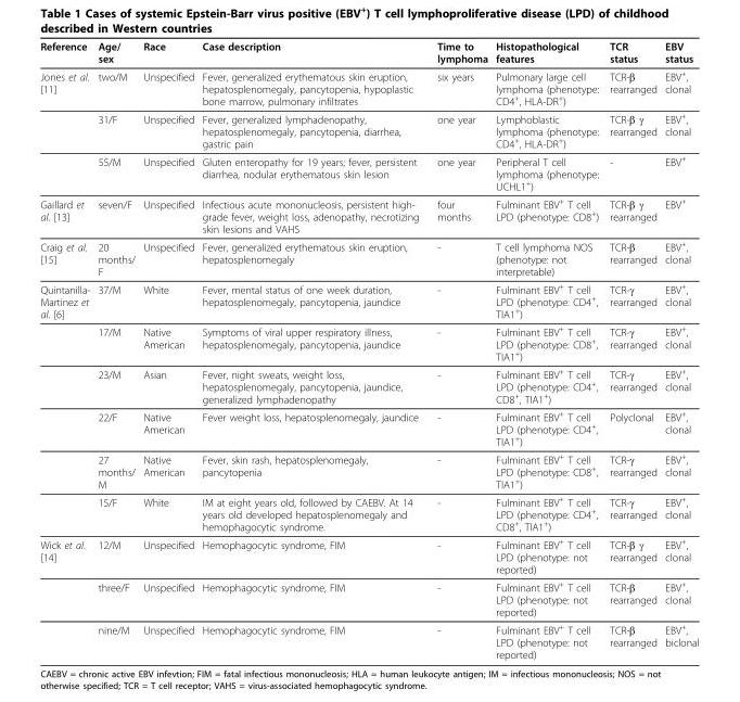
<table><thead><tr><td>Reference</td><td>Age/ sex</td><td>Race</td><td>Case description</td><td>Time to lymphoma</td><td>Histopathological features</td><td>TCR status</td><td>EBV status</td></tr></thead><tbody><tr><td rowspan="3">Jones et al. [11]</td><td>two/M</td><td>Unspecified</td><td>Fever, generalized erythematous skin eruption, hepatosplenomegaly, pancytopenia, hypoplastic bone marrow, pulmonary infiltrates</td><td>six years</td><td>Pulmonary large cell lymphoma (phenotype: CD4<sup>+</sup>, HLA-DR<sup>+</sup>)</td><td>TCR-β rearranged</td><td>EBV<sup>+</sup>, clonal</td></tr><tr><td>31/F</td><td>Unspecified</td><td>Fever, generalized lymphadenopathy, hepatosplenomegaly, pancytopenia, diarrhea, gastric pain</td><td>one year</td><td>Lymphoblastic lymphoma (phenotype: CD4<sup>+</sup>, HLA-DR<sup>+</sup>)</td><td>TCR-β γ rearranged</td><td>EBV<sup>+</sup>, clonal</td></tr><tr><td>55/M</td><td>Unspecified</td><td>Gluten enteropathy for 19 years; fever, persistent diarrhea, nodular erythematous skin lesion</td><td>one year</td><td>Peripheral T cell lymphoma (phenotype: UCHL1<sup>+</sup>)</td><td>-</td><td>EBV<sup>+</sup></td></tr><tr><td>Gaillard et al. [13]</td><td>seven/F</td><td>Unspecified</td><td>Infectious acute mononucleosis, persistent high- grade fever, weight loss, adenopathy, necrotizing skin lesions and VAHS</td><td>four months</td><td>Fulminant EBV<sup>+</sup> T cell LPD (phenotype: CD8<sup>+</sup>)</td><td>TCR-β γ rearranged</td><td>EBV<sup>+</sup></td></tr><tr><td>Craig et al. [15]</td><td>20 months/ F</td><td>Unspecified</td><td>Fever, generalized erythematous skin eruption, hepatosplenomegaly</td><td>-</td><td>T cell lymphoma NOS (phenotype: not interpretable)</td><td>TCR-β rearranged</td><td>EBV<sup>+</sup>, clonal</td></tr><tr><td rowspan="6">Quintanilla- Martinez et al. [6]</td><td>37/M</td><td>White</td><td>Fever, mental status of one week duration, hepatosplenomegaly, pancytopenia, jaundice</td><td>-</td><td>Fulminant EBV<sup>+</sup> T cell LPD (phenotype: CD4<sup>+</sup>, TIA1<sup>+</sup>)</td><td>TCR-γ rearranged</td><td>EBV<sup>+</sup>, clonal</td></tr><tr><td>17/M</td><td>Native American</td><td>Symptoms of viral upper respiratory illness, hepatosplenomegaly, pancytopenia, jaundice</td><td>-</td><td>Fulminant EBV<sup>+</sup> T cell LPD (phenotype: CD8<sup>+</sup>, TIA1<sup>+</sup>)</td><td>TCR-γ rearranged</td><td>EBV<sup>+</sup>, clonal</td></tr><tr><td>23/M</td><td>Asian</td><td>Fever, night sweats, weight loss, hepatosplenomegaly, pancytopenia, jaundice, generalized lymphadenopathy</td><td>-</td><td>Fulminant EBV<sup>+</sup> T cell LPD (phenotype: CD4<sup>+</sup>, CD8<sup>+</sup>, TIA1<sup>+</sup>)</td><td>TCR-γ rearranged</td><td>EBV<sup>+</sup>, clonal</td></tr><tr><td>22/F</td><td>Native American</td><td>Fever weight loss, hepatosplenomegaly, jaundice</td><td>-</td><td>Fulminant EBV<sup>+</sup> T cell LPD (phenotype: CD4<sup>+</sup>, TIA1<sup>+</sup>)</td><td>Polyclonal</td><td>EBV<sup>+</sup>, clonal</td></tr><tr><td>27 months/ M</td><td>Native American</td><td>Fever, skin rash, hepatosplenomegaly, pancytopenia</td><td>-</td><td>Fulminant EBV<sup>+</sup> T cell LPD (phenotype: CD8<sup>+</sup>, TIA1<sup>+</sup>)</td><td>TCR-γ rearranged</td><td>EBV<sup>+</sup>, clonal</td></tr><tr><td>15/F</td><td>White</td><td>IM at eight years old, followed by CAEBV. At 14 years old developed hepatosplenomegaly and hemophagocytic syndrome.</td><td>-</td><td>Fulminant EBV<sup>+</sup> T cell LPD (phenotype: CD4<sup>+</sup>, CD8<sup>+</sup>, TIA1<sup>+</sup>)</td><td>TCR-γ rearranged</td><td>EBV<sup>+</sup>, clonal</td></tr><tr><td rowspan="3">Wick et al. [14]</td><td>12/M</td><td>Unspecified</td><td>Hemophagocytic syndrome, FIM</td><td>-</td><td>Fulminant EBV<sup>+</sup> T cell LPD (phenotype: not reported)</td><td>TCR-β γ rearranged</td><td>EBV<sup>+</sup>, clonal</td></tr><tr><td>three/F</td><td>Unspecified</td><td>Hemophagocytic syndrome, FIM</td><td>-</td><td>Fulminant EBV<sup>+</sup> T cell LPD (phenotype: not reported)</td><td>TCR-β rearranged</td><td>EBV<sup>+</sup>, clonal</td></tr><tr><td>nine/M</td><td>Unspecified</td><td>Hemophagocytic syndrome, FIM</td><td>-</td><td>Fulminant EBV<sup>+</sup> T cell LPD (phenotype: not reported)</td><td>TCR-β rearranged</td><td>EBV<sup>+</sup>, biclonal</td></tr></tbody></table>